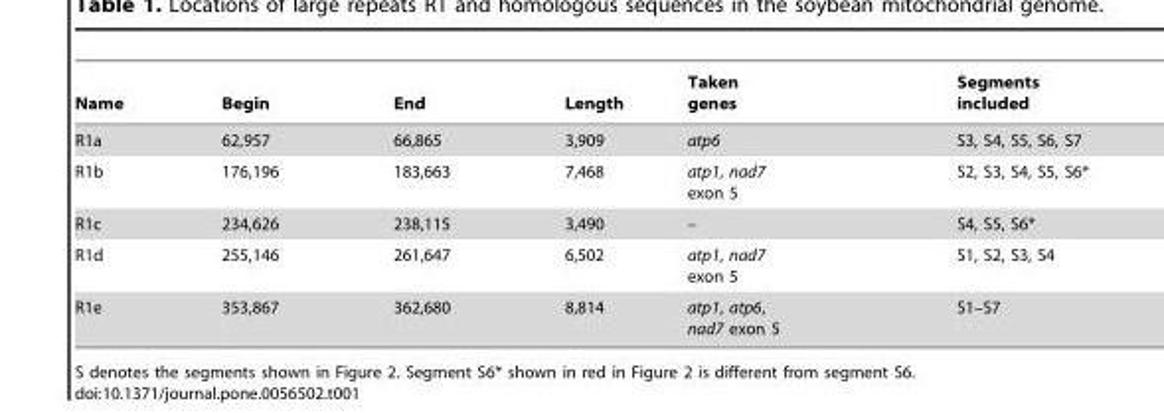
<table><thead><tr><td>Name</td><td>Begin</td><td>End</td><td>Length</td><td>Taken genes</td><td>Segments included</td></tr></thead><tbody><tr><td>R1a</td><td>62,957</td><td>66,865</td><td>3,909</td><td>atp6</td><td>S3, S4, S5, S6, S7</td></tr><tr><td>R1b</td><td>176,196</td><td>183,663</td><td>7,468</td><td>atp1, nad7 exon 5</td><td>S2, S3, S4, S5, S6*</td></tr><tr><td>R1c</td><td>234,626</td><td>238,115</td><td>3,490</td><td>–</td><td>S4, S5, S6*</td></tr><tr><td>R1d</td><td>255,146</td><td>261,647</td><td>6,502</td><td>atp1, nad7 exon 5</td><td>S1, S2, S3, S4</td></tr><tr><td>R1e</td><td>353,867</td><td>362,680</td><td>8,814</td><td>atp1, atp6, nad7 exon 5</td><td>S1–S7</td></tr></tbody></table>